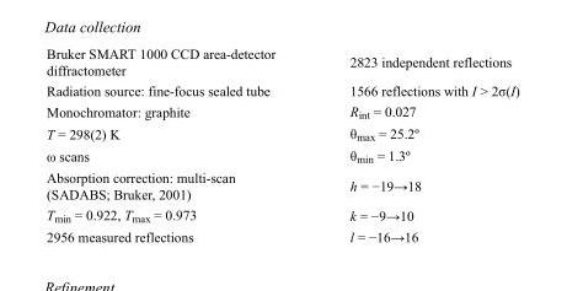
<table><tbody><tr><td>Bruker SMART 1000 CCD area-detector diffractometer</td><td>2823 independent reflections</td></tr><tr><td>Radiation source: fine-focus sealed tube</td><td>1566 reflections with I &gt; 2σ(I)</td></tr><tr><td>Monochromator: graphite</td><td>R<sub>int</sub> = 0.027</td></tr><tr><td>T = 298(2) K</td><td>θ<sub>max</sub> = 25.2º</td></tr><tr><td>ω scans</td><td>θ<sub>min</sub> = 1.3º</td></tr><tr><td>Absorption correction: multi-scan (SADABS; Bruker, 2001)</td><td>h = −19→18</td></tr><tr><td>T<sub>min</sub> = 0.922, T<sub>max</sub> = 0.973</td><td>k = −9→10</td></tr><tr><td>2956 measured reflections</td><td>l = −16→16</td></tr></tbody></table>